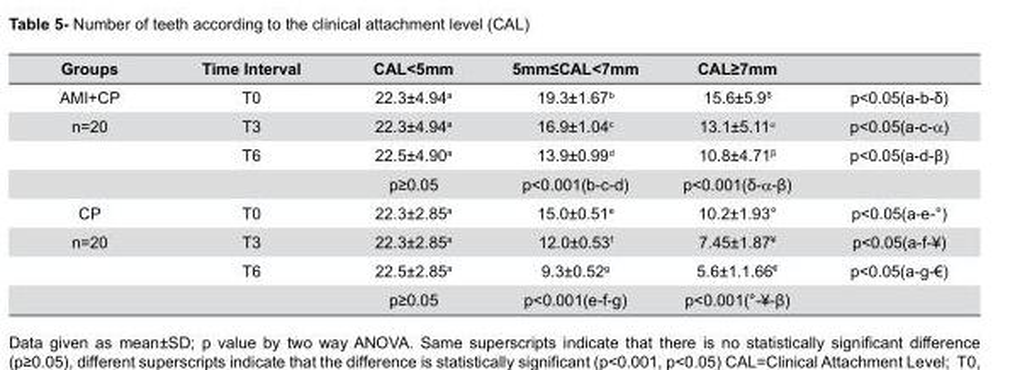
<table><thead><tr><td>Groups</td><td>Time Interval</td><td>CAL&lt;5mm</td><td>5mm≤CAL&lt;7mm</td><td>CAL≥7mm</td><td></td></tr></thead><tbody><tr><td>AMI+CP</td><td>T0</td><td>22.3±4.94<sup>a</sup></td><td>19.3±1.67<sup>b</sup></td><td>15.6±5.9<sup>δ</sup></td><td>p&lt;0.05(a-b-δ)</td></tr><tr><td rowspan="3">n=20</td><td>T3</td><td>22.3±4.94<sup>a</sup></td><td>16.9±1.04<sup>c</sup></td><td>13.1±5.11<sup>α</sup></td><td>p&lt;0.05(a-c-α)</td></tr><tr><td>T6</td><td>22.5±4.90<sup>a</sup></td><td>13.9±0.99<sup>d</sup></td><td>10.8±4.71<sup>β</sup></td><td>p&lt;0.05(a-d-β)</td></tr><tr><td></td><td>p≥0.05</td><td>p&lt;0.001(b-c-d)</td><td>p&lt;0.001(δ-α-β)</td><td></td></tr><tr><td>CP</td><td>T0</td><td>22.3±2.85<sup>a</sup></td><td>15.0±0.51<sup>e</sup></td><td>10.2±1.93°</td><td>p&lt;0.05(a-e-°)</td></tr><tr><td rowspan="3">n=20</td><td>T3</td><td>22.3±2.85<sup>a</sup></td><td>12.0±0.53<sup>f</sup></td><td>7.45±1.87<sup>¥</sup></td><td>p&lt;0.05(a-f-¥)</td></tr><tr><td>T6</td><td>22.5±2.85<sup>a</sup></td><td>9.3±0.52g</td><td>5.6±1.1.66<sup>€</sup></td><td>p&lt;0.05(a-g-€)</td></tr><tr><td></td><td>p≥0.05</td><td>p&lt;0.001(e-f-g)</td><td>p&lt;0.001(°-¥-β)</td><td></td></tr></tbody></table>